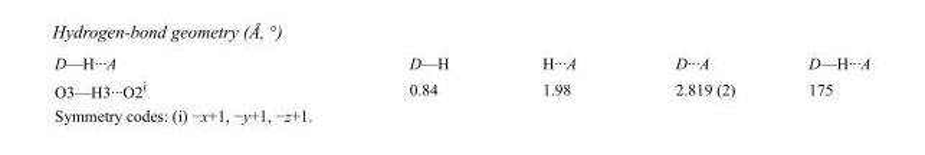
<table><tbody><tr><td>D—H···A</td><td>D—H</td><td>H···A</td><td>D···A</td><td>D—H···A</td></tr><tr><td>O3—H3···O2<sup>i</sup></td><td>0.84</td><td>1.98</td><td>2.819 (2)</td><td>175</td></tr></tbody></table>